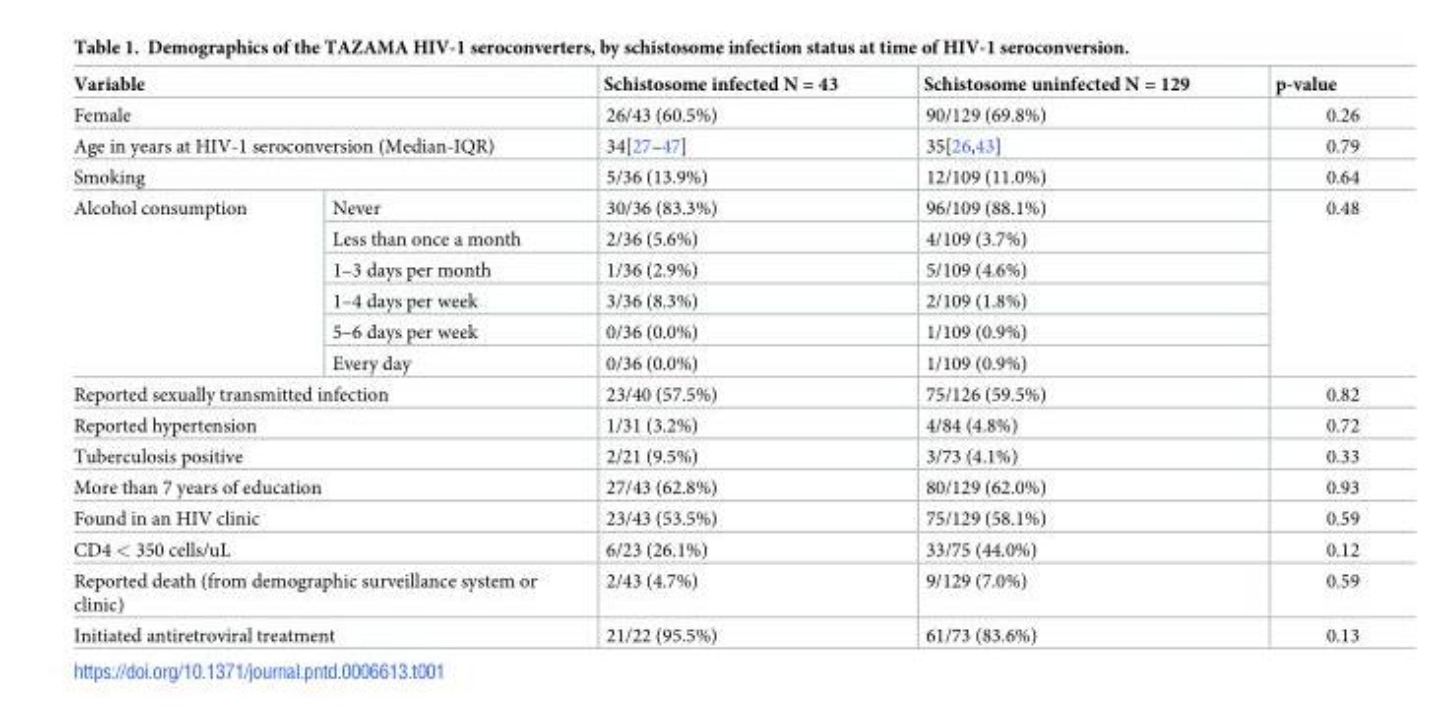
<table><thead><tr><td colspan="2">Variable</td><td>Schistosome infected N = 43</td><td>Schistosome uninfected N = 129</td><td>p-value</td></tr></thead><tbody><tr><td colspan="2">Female</td><td>26/43 (60.5%)</td><td>90/129 (69.8%)</td><td>0.26</td></tr><tr><td colspan="2">Age in years at HIV-1 seroconversion (Median-IQR)</td><td>34[27–47]</td><td>35[26,43]</td><td>0.79</td></tr><tr><td colspan="2">Smoking</td><td>5/36 (13.9%)</td><td>12/109 (11.0%)</td><td>0.64</td></tr><tr><td rowspan="6">Alcohol consumption</td><td>Never</td><td>30/36 (83.3%)</td><td>96/109 (88.1%)</td><td rowspan="6">0.48</td></tr><tr><td>Less than once a month</td><td>2/36 (5.6%)</td><td>4/109 (3.7%)</td></tr><tr><td>1–3 days per month</td><td>1/36 (2.9%)</td><td>5/109 (4.6%)</td></tr><tr><td>1–4 days per week</td><td>3/36 (8.3%)</td><td>2/109 (1.8%)</td></tr><tr><td>5–6 days per week</td><td>0/36 (0.0%)</td><td>1/109 (0.9%)</td></tr><tr><td>Every day</td><td>0/36 (0.0%)</td><td>1/109 (0.9%)</td></tr><tr><td colspan="2">Reported sexually transmitted infection</td><td>23/40 (57.5%)</td><td>75/126 (59.5%)</td><td>0.82</td></tr><tr><td colspan="2">Reported hypertension</td><td>1/31 (3.2%)</td><td>4/84 (4.8%)</td><td>0.72</td></tr><tr><td colspan="2">Tuberculosis positive</td><td>2/21 (9.5%)</td><td>3/73 (4.1%)</td><td>0.33</td></tr><tr><td colspan="2">More than 7 years of education</td><td>27/43 (62.8%)</td><td>80/129 (62.0%)</td><td>0.93</td></tr><tr><td colspan="2">Found in an HIV clinic</td><td>23/43 (53.5%)</td><td>75/129 (58.1%)</td><td>0.59</td></tr><tr><td colspan="2">CD4 &lt; 350 cells/uL</td><td>6/23 (26.1%)</td><td>33/75 (44.0%)</td><td>0.12</td></tr><tr><td colspan="2">Reported death (from demographic surveillance system or clinic)</td><td>2/43 (4.7%)</td><td>9/129 (7.0%)</td><td>0.59</td></tr><tr><td colspan="2">Initiated antiretroviral treatment</td><td>21/22 (95.5%)</td><td>61/73 (83.6%)</td><td>0.13</td></tr></tbody></table>